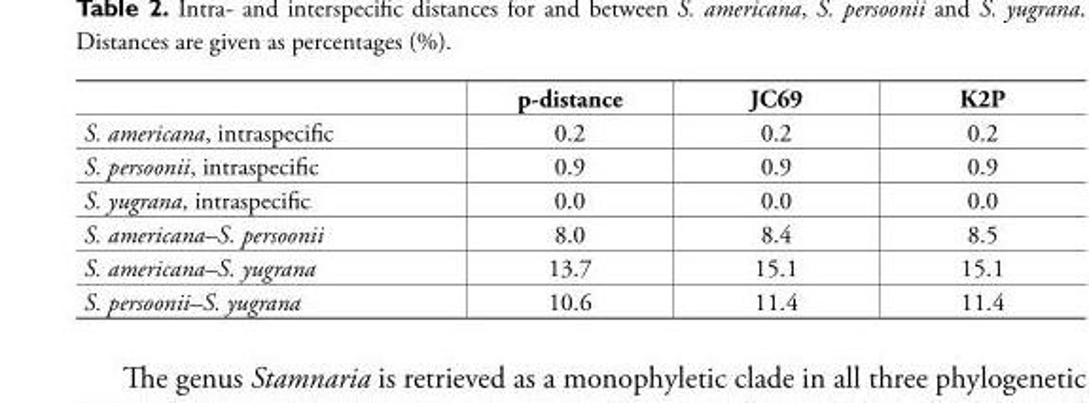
<table><thead><tr><td></td><td>p-distance</td><td>JC69</td><td>K2P</td></tr></thead><tbody><tr><td>S. americana, intraspecific</td><td>0.2</td><td>0.2</td><td>0.2</td></tr><tr><td>S. persoonii, intraspecific</td><td>0.9</td><td>0.9</td><td>0.9</td></tr><tr><td>S. yugrana, intraspecific</td><td>0.0</td><td>0.0</td><td>0.0</td></tr><tr><td>S. americana–S. persoonii</td><td>8.0</td><td>8.4</td><td>8.5</td></tr><tr><td>S. americana–S. yugrana</td><td>13.7</td><td>15.1</td><td>15.1</td></tr><tr><td>S. persoonii–S. yugrana</td><td>10.6</td><td>11.4</td><td>11.4</td></tr></tbody></table>